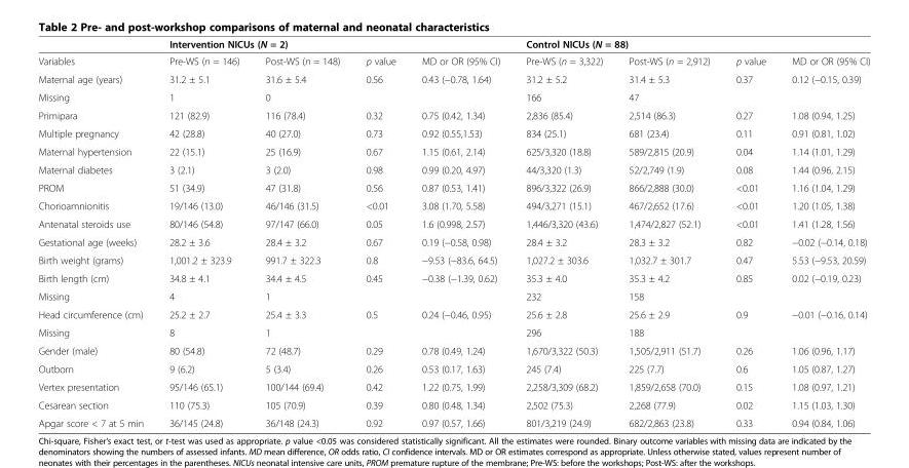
<table><thead><tr><td rowspan="2">Variables</td><td colspan="4">Intervention NICUs (N = 2)</td><td colspan="4">Control NICUs (N = 88)</td></tr><tr><td>Pre-WS (n = 146)</td><td>Post-WS (n = 148)</td><td>p value</td><td>MD or OR (95% CI)</td><td>Pre-WS (n = 3,322)</td><td>Post-WS (n = 2,912)</td><td>p value</td><td>MD or OR (95% CI)</td></tr></thead><tbody><tr><td>Maternal age (years)</td><td>31.2 ± 5.1</td><td>31.6 ± 5.4</td><td>0.56</td><td>0.43 (−0.78, 1.64)</td><td>31.2 ± 5.2</td><td>31.4 ± 5.3</td><td>0.37</td><td>0.12 (−0.15, 0.39)</td></tr><tr><td>Missing</td><td>1</td><td>0</td><td></td><td></td><td>166</td><td>47</td><td></td><td></td></tr><tr><td>Primipara</td><td>121 (82.9)</td><td>116 (78.4)</td><td>0.32</td><td>0.75 (0.42, 1.34)</td><td>2,836 (85.4)</td><td>2,514 (86.3)</td><td>0.27</td><td>1.08 (0.94, 1.25)</td></tr><tr><td>Multiple pregnancy</td><td>42 (28.8)</td><td>40 (27.0)</td><td>0.73</td><td>0.92 (0.55,1.53)</td><td>834 (25.1)</td><td>681 (23.4)</td><td>0.11</td><td>0.91 (0.81, 1.02)</td></tr><tr><td>Maternal hypertension</td><td>22 (15.1)</td><td>25 (16.9)</td><td>0.67</td><td>1.15 (0.61, 2.14)</td><td>625/3,320 (18.8)</td><td>589/2,815 (20.9)</td><td>0.04</td><td>1.14 (1.01, 1.29)</td></tr><tr><td>Maternal diabetes</td><td>3 (2.1)</td><td>3 (2.0)</td><td>0.98</td><td>0.99 (0.20, 4.97)</td><td>44/3,320 (1.3)</td><td>52/2,749 (1.9)</td><td>0.08</td><td>1.44 (0.96, 2.15)</td></tr><tr><td>PROM</td><td>51 (34.9)</td><td>47 (31.8)</td><td>0.56</td><td>0.87 (0.53, 1.41)</td><td>896/3,322 (26.9)</td><td>866/2,888 (30.0)</td><td>&lt;0.01</td><td>1.16 (1.04, 1.29)</td></tr><tr><td>Chorioamnionitis</td><td>19/146 (13.0)</td><td>46/146 (31.5)</td><td>&lt;0.01</td><td>3.08 (1.70, 5.58)</td><td>494/3,271 (15.1)</td><td>467/2,652 (17.6)</td><td>&lt;0.01</td><td>1.20 (1.05, 1.38)</td></tr><tr><td>Antenatal steroids use</td><td>80/146 (54.8)</td><td>97/147 (66.0)</td><td>0.05</td><td>1.6 (0.998, 2.57)</td><td>1,446/3,320 (43.6)</td><td>1,474/2,827 (52.1)</td><td>&lt;0.01</td><td>1.41 (1.28, 1.56)</td></tr><tr><td>Gestational age (weeks)</td><td>28.2 ± 3.6</td><td>28.4 ± 3.2</td><td>0.67</td><td>0.19 (−0.58, 0.98)</td><td>28.4 ± 3.2</td><td>28.3 ± 3.2</td><td>0.82</td><td>−0.02 (−0.14, 0.18)</td></tr><tr><td>Birth weight (grams)</td><td>1,001.2 ± 323.9</td><td>991.7 ± 322.3</td><td>0.8</td><td>−9.53 (−83.6, 64.5)</td><td>1,027.2 ± 303.6</td><td>1,032.7 ± 301.7</td><td>0.47</td><td>5.53 (−9.53, 20.59)</td></tr><tr><td>Birth length (cm)</td><td>34.8 ± 4.1</td><td>34.4 ± 4.5</td><td>0.45</td><td>−0.38 (−1.39, 0.62)</td><td>35.3 ± 4.0</td><td>35.3 ± 4.2</td><td>0.85</td><td>0.02 (−0.19, 0.23)</td></tr><tr><td>Missing</td><td>4</td><td>1</td><td></td><td></td><td>232</td><td>158</td><td></td><td></td></tr><tr><td>Head circumference (cm)</td><td>25.2 ± 2.7</td><td>25.4 ± 3.3</td><td>0.5</td><td>0.24 (−0.46, 0.95)</td><td>25.6 ± 2.8</td><td>25.6 ± 2.9</td><td>0.9</td><td>−0.01 (−0.16, 0.14)</td></tr><tr><td>Missing</td><td>8</td><td>1</td><td></td><td></td><td>296</td><td>188</td><td></td><td></td></tr><tr><td>Gender (male)</td><td>80 (54.8)</td><td>72 (48.7)</td><td>0.29</td><td>0.78 (0.49, 1.24)</td><td>1,670/3,322 (50.3)</td><td>1,505/2,911 (51.7)</td><td>0.26</td><td>1.06 (0.96, 1.17)</td></tr><tr><td>Outborn</td><td>9 (6.2)</td><td>5 (3.4)</td><td>0.26</td><td>0.53 (0.17, 1.63)</td><td>245 (7.4)</td><td>225 (7.7)</td><td>0.6</td><td>1.05 (0.87, 1.27)</td></tr><tr><td>Vertex presentation</td><td>95/146 (65.1)</td><td>100/144 (69.4)</td><td>0.42</td><td>1.22 (0.75, 1.99)</td><td>2,258/3,309 (68.2)</td><td>1,859/2,658 (70.0)</td><td>0.15</td><td>1.08 (0.97, 1.21)</td></tr><tr><td>Cesarean section</td><td>110 (75.3)</td><td>105 (70.9)</td><td>0.39</td><td>0.80 (0.48, 1.34)</td><td>2,502 (75.3)</td><td>2,268 (77.9)</td><td>0.02</td><td>1.15 (1.03, 1.30)</td></tr><tr><td>Apgar score &lt; 7 at 5 min</td><td>36/145 (24.8)</td><td>36/148 (24.3)</td><td>0.92</td><td>0.97 (0.57, 1.66)</td><td>801/3,219 (24.9)</td><td>682/2,863 (23.8)</td><td>0.33</td><td>0.94 (0.84, 1.06)</td></tr></tbody></table>